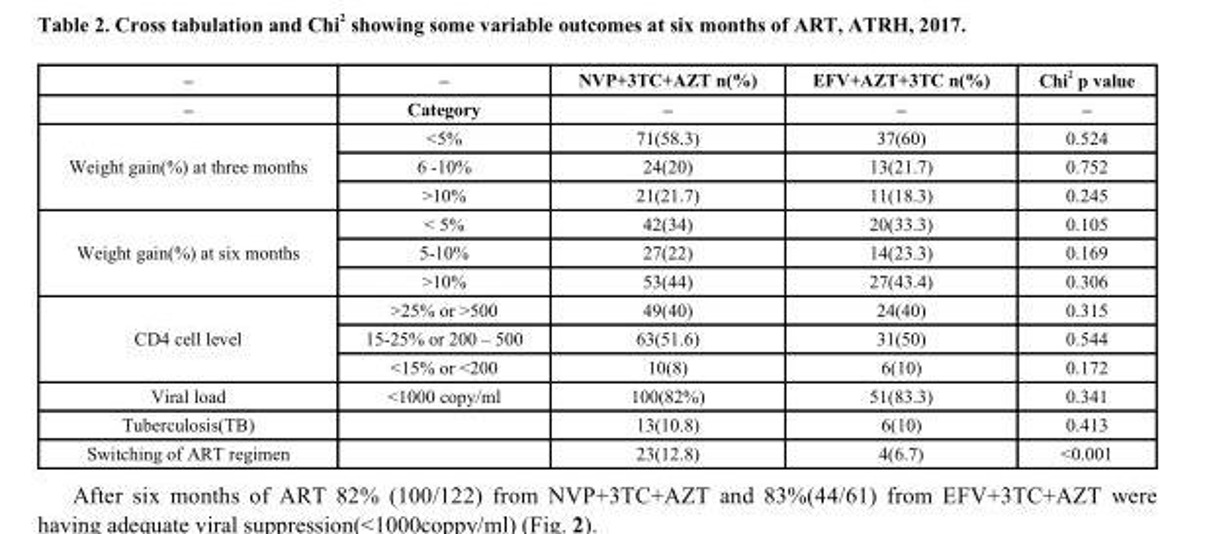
<table><thead><tr><td rowspan="2">– –</td><td rowspan="2">– Category</td><td rowspan="2">NVP+3TC+AZT n(%) –</td><td rowspan="2">EFV+AZT+3TC n(%) –</td><td rowspan="2">Chi <sup>2</sup> p value –</td></tr><tr></tr></thead><tbody><tr><td rowspan="3">Weight gain(%) at three months</td><td>&lt;5%</td><td>71(58.3)</td><td>37(60)</td><td>0.524</td></tr><tr><td>6 -10%</td><td>24(20)</td><td>13(21.7)</td><td>0.752</td></tr><tr><td>&gt;10%</td><td>21(21.7)</td><td>11(18.3)</td><td>0.245</td></tr><tr><td rowspan="3">Weight gain(%) at six months</td><td>&lt; 5%</td><td>42(34)</td><td>20(33.3)</td><td>0.105</td></tr><tr><td>5-10%</td><td>27(22)</td><td>14(23.3)</td><td>0.169</td></tr><tr><td>&gt;10%</td><td>53(44)</td><td>27(43.4)</td><td>0.306</td></tr><tr><td rowspan="3">CD4 cell level</td><td>&gt;25% or &gt;500</td><td>49(40)</td><td>24(40)</td><td>0.315</td></tr><tr><td>15-25% or 200 – 500</td><td>63(51.6)</td><td>31(50)</td><td>0.544</td></tr><tr><td>&lt;15% or &lt;200</td><td>10(8)</td><td>6(10)</td><td>0.172</td></tr><tr><td>Viral load</td><td>&lt;1000 copy/ml</td><td>100(82%)</td><td>51(83.3)</td><td>0.341</td></tr><tr><td>Tuberculosis(TB)</td><td></td><td>13(10.8)</td><td>6(10)</td><td>0.413</td></tr><tr><td>Switching of ART regimen</td><td></td><td>23(12.8)</td><td>4(6.7)</td><td>&lt;0.001</td></tr></tbody></table>